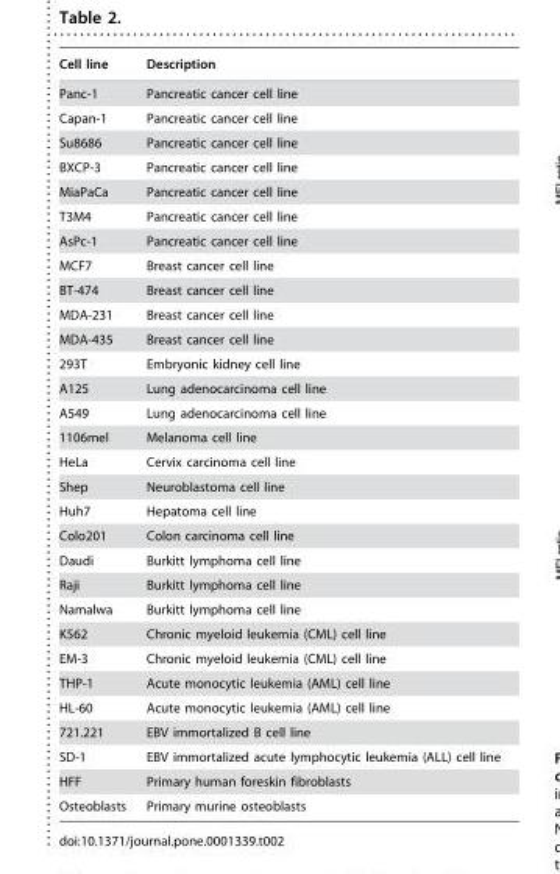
<table><thead><tr><td>Cell line</td><td>Description</td></tr></thead><tbody><tr><td>Panc-1</td><td>Pancreatic cancer cell line</td></tr><tr><td>Capan-1</td><td>Pancreatic cancer cell line</td></tr><tr><td>Su8686</td><td>Pancreatic cancer cell line</td></tr><tr><td>BXCP-3</td><td>Pancreatic cancer cell line</td></tr><tr><td>MiaPaCa</td><td>Pancreatic cancer cell line</td></tr><tr><td>T3M4</td><td>Pancreatic cancer cell line</td></tr><tr><td>AsPc-1</td><td>Pancreatic cancer cell line</td></tr><tr><td>MCF7</td><td>Breast cancer cell line</td></tr><tr><td>BT-474</td><td>Breast cancer cell line</td></tr><tr><td>MDA-231</td><td>Breast cancer cell line</td></tr><tr><td>MDA-435</td><td>Breast cancer cell line</td></tr><tr><td>293T</td><td>Embryonic kidney cell line</td></tr><tr><td>A125</td><td>Lung adenocarcinoma cell line</td></tr><tr><td>A549</td><td>Lung adenocarcinoma cell line</td></tr><tr><td>1106mel</td><td>Melanoma cell line</td></tr><tr><td>HeLa</td><td>Cervix carcinoma cell line</td></tr><tr><td>Shep</td><td>Neuroblastoma cell line</td></tr><tr><td>Huh7</td><td>Hepatoma cell line</td></tr><tr><td>Colo201</td><td>Colon carcinoma cell line</td></tr><tr><td>Daudi</td><td>Burkitt lymphoma cell line</td></tr><tr><td>Raji</td><td>Burkitt lymphoma cell line</td></tr><tr><td>Namalwa</td><td>Burkitt lymphoma cell line</td></tr><tr><td>K562</td><td>Chronic myeloid leukemia (CML) cell line</td></tr><tr><td>EM-3</td><td>Chronic myeloid leukemia (CML) cell line</td></tr><tr><td>THP-1</td><td>Acute monocytic leukemia (AML) cell line</td></tr><tr><td>HL-60</td><td>Acute monocytic leukemia (AML) cell line</td></tr><tr><td>721.221</td><td>EBV immortalized B cell line</td></tr><tr><td>SD-1</td><td>EBV immortalized acute lymphocytic leukemia (ALL) cell line</td></tr><tr><td>HFF</td><td>Primary human foreskin fibroblasts</td></tr><tr><td>Osteoblasts</td><td>Primary murine osteoblasts</td></tr></tbody></table>